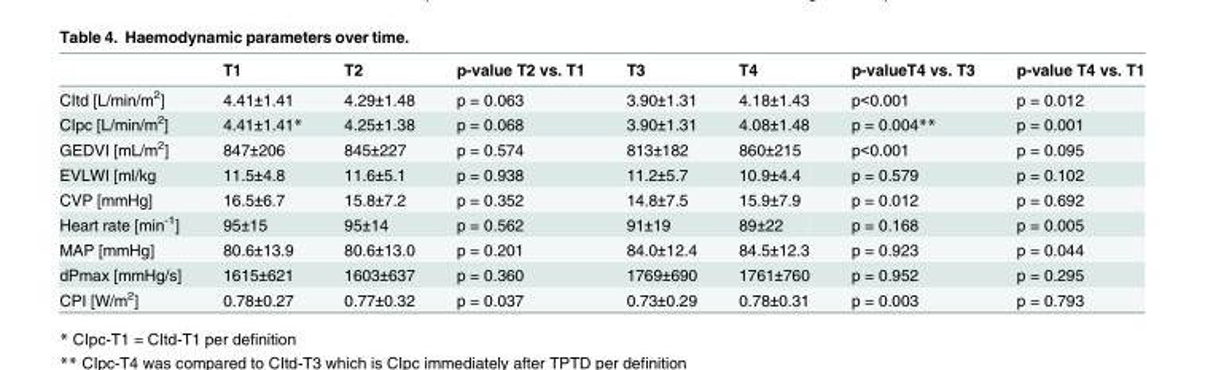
<table><thead><tr><td></td><td>T1</td><td>T2</td><td>p-value T2 vs. T1</td><td>T3</td><td>T4</td><td>p-valueT4 vs. T3</td><td>p-value T4 vs. T1</td></tr></thead><tbody><tr><td>CItd [L/min/m<sup>2</sup>]</td><td>4.41±1.41</td><td>4.29±1.48</td><td>p = 0.063</td><td>3.90±1.31</td><td>4.18±1.43</td><td>p&lt;0.001</td><td>p = 0.012</td></tr><tr><td>CIpc [L/min/m<sup>2</sup>]</td><td>4.41±1.41*</td><td>4.25±1.38</td><td>p = 0.068</td><td>3.90±1.31</td><td>4.08±1.48</td><td>p = 0.004**</td><td>p = 0.001</td></tr><tr><td>GEDVI [mL/m<sup>2</sup>]</td><td>847±206</td><td>845±227</td><td>p = 0.574</td><td>813±182</td><td>860±215</td><td>p&lt;0.001</td><td>p = 0.095</td></tr><tr><td>EVLWI [ml/kg</td><td>11.5±4.8</td><td>11.6±5.1</td><td>p = 0.938</td><td>11.2±5.7</td><td>10.9±4.4</td><td>p = 0.579</td><td>p = 0.102</td></tr><tr><td>CVP [mmHg]</td><td>16.5±6.7</td><td>15.8±7.2</td><td>p = 0.352</td><td>14.8±7.5</td><td>15.9±7.9</td><td>p = 0.012</td><td>p = 0.692</td></tr><tr><td>Heart rate [min<sup>-1</sup>]</td><td>95±15</td><td>95±14</td><td>p = 0.562</td><td>91±19</td><td>89±22</td><td>p = 0.168</td><td>p = 0.005</td></tr><tr><td>MAP [mmHg]</td><td>80.6±13.9</td><td>80.6±13.0</td><td>p = 0.201</td><td>84.0±12.4</td><td>84.5±12.3</td><td>p = 0.923</td><td>p = 0.044</td></tr><tr><td>dPmax [mmHg/s]</td><td>1615±621</td><td>1603±637</td><td>p = 0.360</td><td>1769±690</td><td>1761±760</td><td>p = 0.952</td><td>p = 0.295</td></tr><tr><td>CPI [W/m<sup>2</sup>]</td><td>0.78±0.27</td><td>0.77±0.32</td><td>p = 0.037</td><td>0.73±0.29</td><td>0.78±0.31</td><td>p = 0.003</td><td>p = 0.793</td></tr></tbody></table>